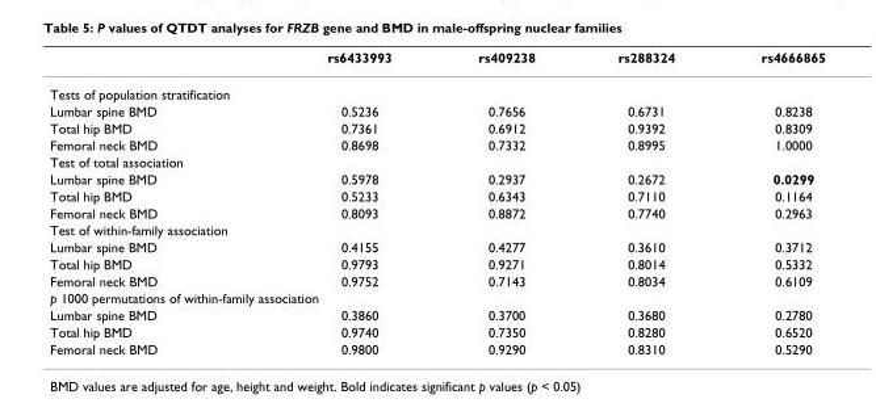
<table><thead><tr><td></td><td>rs6433993</td><td>rs409238</td><td>rs288324</td><td>rs4666865</td></tr></thead><tbody><tr><td colspan="5">Tests of population stratification</td></tr><tr><td>Lumbar spine BMD</td><td>0.5236</td><td>0.7656</td><td>0.6731</td><td>0.8238</td></tr><tr><td>Total hip BMD</td><td>0.7361</td><td>0.6912</td><td>0.9392</td><td>0.8309</td></tr><tr><td>Femoral neck BMD</td><td>0.8698</td><td>0.7332</td><td>0.8995</td><td>1.0000</td></tr><tr><td colspan="5">Test of total association</td></tr><tr><td>Lumbar spine BMD</td><td>0.5978</td><td>0.2937</td><td>0.2672</td><td>0.0299</td></tr><tr><td>Total hip BMD</td><td>0.5233</td><td>0.6343</td><td>0.7110</td><td>0.1164</td></tr><tr><td>Femoral neck BMD</td><td>0.8093</td><td>0.8872</td><td>0.7740</td><td>0.2963</td></tr><tr><td colspan="5">Test of within-family association</td></tr><tr><td>Lumbar spine BMD</td><td>0.4155</td><td>0.4277</td><td>0.3610</td><td>0.3712</td></tr><tr><td>Total hip BMD</td><td>0.9793</td><td>0.9271</td><td>0.8014</td><td>0.5332</td></tr><tr><td>Femoral neck BMD</td><td>0.9752</td><td>0.7143</td><td>0.8034</td><td>0.6109</td></tr><tr><td colspan="5">p 1000 permutations of within-family association</td></tr><tr><td>Lumbar spine BMD</td><td>0.3860</td><td>0.3700</td><td>0.3680</td><td>0.2780</td></tr><tr><td>Total hip BMD</td><td>0.9740</td><td>0.7350</td><td>0.8280</td><td>0.6520</td></tr><tr><td>Femoral neck BMD</td><td>0.9800</td><td>0.9290</td><td>0.8310</td><td>0.5290</td></tr></tbody></table>